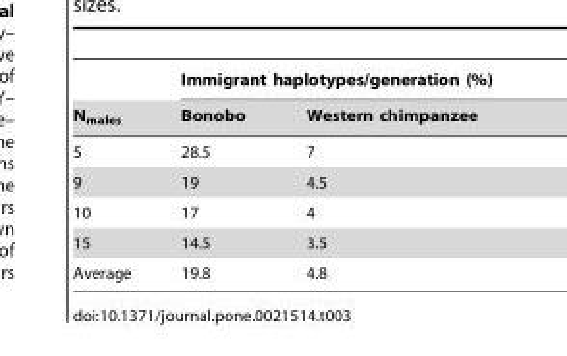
<table><thead><tr><td rowspan="2">N<sub>males</sub></td><td colspan="2">Immigrant haplotypes/generation (%)</td></tr><tr><td>Bonobo</td><td>Western chimpanzee</td></tr></thead><tbody><tr><td>5</td><td>28.5</td><td>7</td></tr><tr><td>9</td><td>19</td><td>4.5</td></tr><tr><td>10</td><td>17</td><td>4</td></tr><tr><td>15</td><td>14.5</td><td>3.5</td></tr><tr><td>Average</td><td>19.8</td><td>4.8</td></tr></tbody></table>